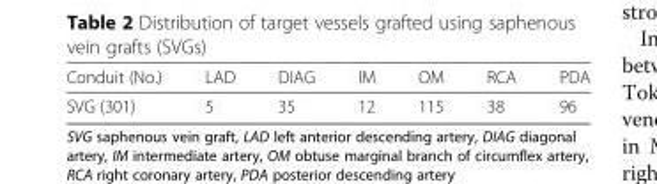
<table><thead><tr><td>Conduit (No.)</td><td>LAD</td><td>DIAG</td><td>IM</td><td>OM</td><td>RCA</td><td>PDA</td></tr></thead><tbody><tr><td>SVG (301)</td><td>5</td><td>35</td><td>12</td><td>115</td><td>38</td><td>96</td></tr></tbody></table>